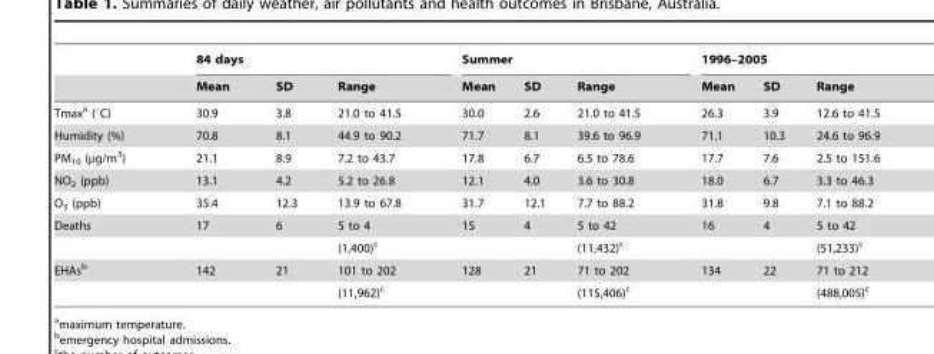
<table><thead><tr><td rowspan="2"></td><td colspan="3">84 days</td><td colspan="3">Summer</td><td colspan="3">1996–2005</td></tr><tr><td>Mean</td><td>SD</td><td>Range</td><td>Mean</td><td>SD</td><td>Range</td><td>Mean</td><td>SD</td><td>Range</td></tr></thead><tbody><tr><td>Tmax<sup>a</sup> (°C)</td><td>30.9</td><td>3.8</td><td>21.0 to 41.5</td><td>30.0</td><td>2.6</td><td>21.0 to 41.5</td><td>26.3</td><td>3.9</td><td>12.6 to 41.5</td></tr><tr><td>Humidity (%)</td><td>70.8</td><td>8.1</td><td>44.9 to 90.2</td><td>71.7</td><td>8.1</td><td>39.6 to 96.9</td><td>71.1</td><td>10.3</td><td>24.6 to 96.9</td></tr><tr><td>PM<sub>10</sub> (µg/m<sup>3</sup>)</td><td>21.1</td><td>8.9</td><td>7.2 to 43.7</td><td>17.8</td><td>6.7</td><td>6.5 to 78.6</td><td>17.7</td><td>7.6</td><td>2.5 to 151.6</td></tr><tr><td>NO<sub>2</sub> (ppb)</td><td>13.1</td><td>4.2</td><td>5.2 to 26.8</td><td>12.1</td><td>4.0</td><td>3.6 to 30.8</td><td>18.0</td><td>6.7</td><td>3.3 to 46.3</td></tr><tr><td>O<sub>3</sub> (ppb)</td><td>35.4</td><td>12.3</td><td>13.9 to 67.8</td><td>31.7</td><td>12.1</td><td>7.7 to 88.2</td><td>31.8</td><td>9.8</td><td>7.1 to 88.2</td></tr><tr><td rowspan="2">Deaths</td><td>17</td><td>6</td><td>5 to 4</td><td>15</td><td>4</td><td>5 to 42</td><td>16</td><td>4</td><td>5 to 42</td></tr><tr><td></td><td></td><td>(1,400)<sup>c</sup></td><td></td><td></td><td>(11,432)<sup>c</sup></td><td></td><td></td><td>(51,233)<sup>c</sup></td></tr><tr><td rowspan="2">EHAs<sup>b</sup></td><td>142</td><td>21</td><td>101 to 202</td><td>128</td><td>21</td><td>71 to 202</td><td>134</td><td>22</td><td>71 to 212</td></tr><tr><td></td><td></td><td>(11,962)<sup>c</sup></td><td></td><td></td><td>(115,406)<sup>c</sup></td><td></td><td></td><td>(488,005)<sup>c</sup></td></tr></tbody></table>